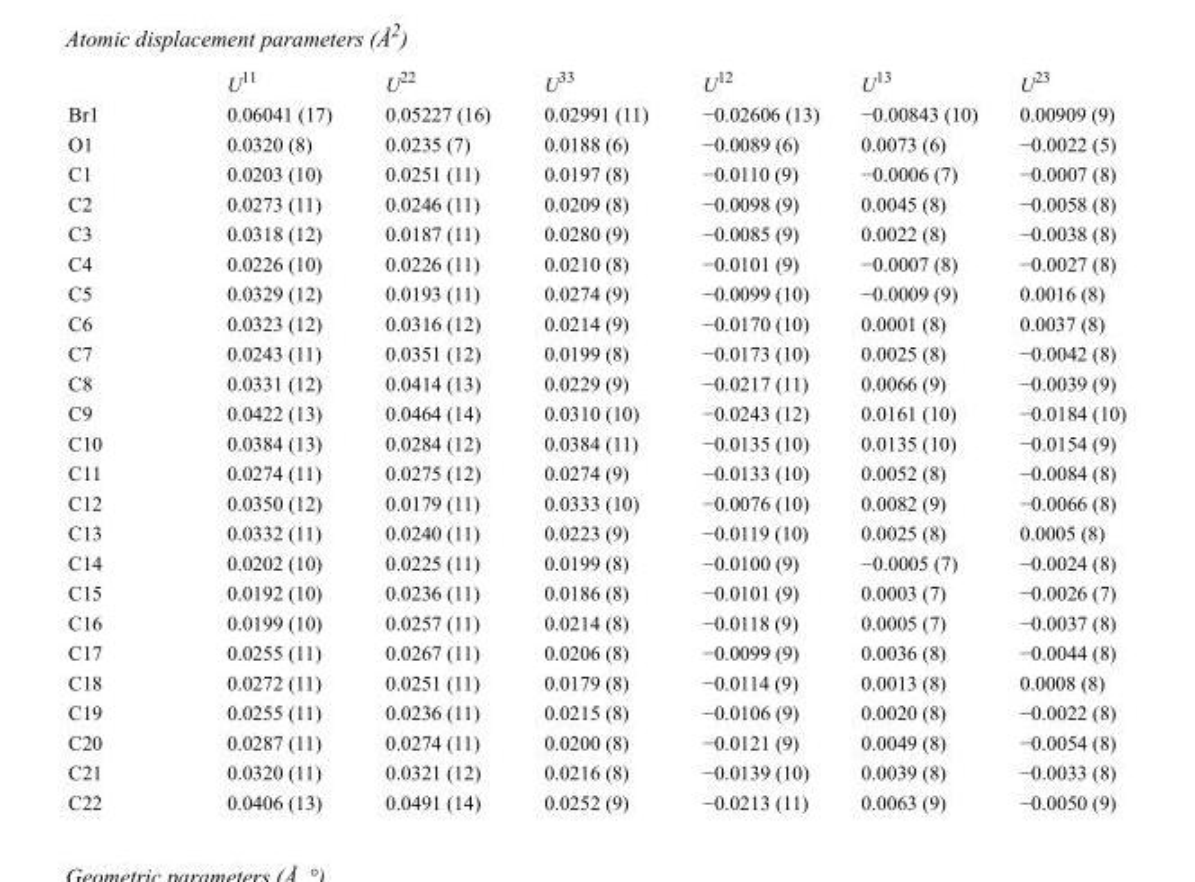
<table><thead><tr><td></td><td>U<sup>11</sup></td><td>U<sup>22</sup></td><td>U<sup>33</sup></td><td>U<sup>12</sup></td><td>U<sup>13</sup></td><td>U<sup>23</sup></td></tr></thead><tbody><tr><td>Br1</td><td>0.06041 (17)</td><td>0.05227 (16)</td><td>0.02991 (11)</td><td>−0.02606 (13)</td><td>−0.00843 (10)</td><td>0.00909 (9)</td></tr><tr><td>O1</td><td>0.0320 (8)</td><td>0.0235 (7)</td><td>0.0188 (6)</td><td>−0.0089 (6)</td><td>0.0073 (6)</td><td>−0.0022 (5)</td></tr><tr><td>C1</td><td>0.0203 (10)</td><td>0.0251 (11)</td><td>0.0197 (8)</td><td>−0.0110 (9)</td><td>−0.0006 (7)</td><td>−0.0007 (8)</td></tr><tr><td>C2</td><td>0.0273 (11)</td><td>0.0246 (11)</td><td>0.0209 (8)</td><td>−0.0098 (9)</td><td>0.0045 (8)</td><td>−0.0058 (8)</td></tr><tr><td>C3</td><td>0.0318 (12)</td><td>0.0187 (11)</td><td>0.0280 (9)</td><td>−0.0085 (9)</td><td>0.0022 (8)</td><td>−0.0038 (8)</td></tr><tr><td>C4</td><td>0.0226 (10)</td><td>0.0226 (11)</td><td>0.0210 (8)</td><td>−0.0101 (9)</td><td>−0.0007 (8)</td><td>−0.0027 (8)</td></tr><tr><td>C5</td><td>0.0329 (12)</td><td>0.0193 (11)</td><td>0.0274 (9)</td><td>−0.0099 (10)</td><td>−0.0009 (9)</td><td>0.0016 (8)</td></tr><tr><td>C6</td><td>0.0323 (12)</td><td>0.0316 (12)</td><td>0.0214 (9)</td><td>−0.0170 (10)</td><td>0.0001 (8)</td><td>0.0037 (8)</td></tr><tr><td>C7</td><td>0.0243 (11)</td><td>0.0351 (12)</td><td>0.0199 (8)</td><td>−0.0173 (10)</td><td>0.0025 (8)</td><td>−0.0042 (8)</td></tr><tr><td>C8</td><td>0.0331 (12)</td><td>0.0414 (13)</td><td>0.0229 (9)</td><td>−0.0217 (11)</td><td>0.0066 (9)</td><td>−0.0039 (9)</td></tr><tr><td>C9</td><td>0.0422 (13)</td><td>0.0464 (14)</td><td>0.0310 (10)</td><td>−0.0243 (12)</td><td>0.0161 (10)</td><td>−0.0184 (10)</td></tr><tr><td>C10</td><td>0.0384 (13)</td><td>0.0284 (12)</td><td>0.0384 (11)</td><td>−0.0135 (10)</td><td>0.0135 (10)</td><td>−0.0154 (9)</td></tr><tr><td>C11</td><td>0.0274 (11)</td><td>0.0275 (12)</td><td>0.0274 (9)</td><td>−0.0133 (10)</td><td>0.0052 (8)</td><td>−0.0084 (8)</td></tr><tr><td>C12</td><td>0.0350 (12)</td><td>0.0179 (11)</td><td>0.0333 (10)</td><td>−0.0076 (10)</td><td>0.0082 (9)</td><td>−0.0066 (8)</td></tr><tr><td>C13</td><td>0.0332 (11)</td><td>0.0240 (11)</td><td>0.0223 (9)</td><td>−0.0119 (10)</td><td>0.0025 (8)</td><td>0.0005 (8)</td></tr><tr><td>C14</td><td>0.0202 (10)</td><td>0.0225 (11)</td><td>0.0199 (8)</td><td>−0.0100 (9)</td><td>−0.0005 (7)</td><td>−0.0024 (8)</td></tr><tr><td>C15</td><td>0.0192 (10)</td><td>0.0236 (11)</td><td>0.0186 (8)</td><td>−0.0101 (9)</td><td>0.0003 (7)</td><td>−0.0026 (7)</td></tr><tr><td>C16</td><td>0.0199 (10)</td><td>0.0257 (11)</td><td>0.0214 (8)</td><td>−0.0118 (9)</td><td>0.0005 (7)</td><td>−0.0037 (8)</td></tr><tr><td>C17</td><td>0.0255 (11)</td><td>0.0267 (11)</td><td>0.0206 (8)</td><td>−0.0099 (9)</td><td>0.0036 (8)</td><td>−0.0044 (8)</td></tr><tr><td>C18</td><td>0.0272 (11)</td><td>0.0251 (11)</td><td>0.0179 (8)</td><td>−0.0114 (9)</td><td>0.0013 (8)</td><td>0.0008 (8)</td></tr><tr><td>C19</td><td>0.0255 (11)</td><td>0.0236 (11)</td><td>0.0215 (8)</td><td>−0.0106 (9)</td><td>0.0020 (8)</td><td>−0.0022 (8)</td></tr><tr><td>C20</td><td>0.0287 (11)</td><td>0.0274 (11)</td><td>0.0200 (8)</td><td>−0.0121 (9)</td><td>0.0049 (8)</td><td>−0.0054 (8)</td></tr><tr><td>C21</td><td>0.0320 (11)</td><td>0.0321 (12)</td><td>0.0216 (8)</td><td>−0.0139 (10)</td><td>0.0039 (8)</td><td>−0.0033 (8)</td></tr><tr><td>C22</td><td>0.0406 (13)</td><td>0.0491 (14)</td><td>0.0252 (9)</td><td>−0.0213 (11)</td><td>0.0063 (9)</td><td>−0.0050 (9)</td></tr></tbody></table>